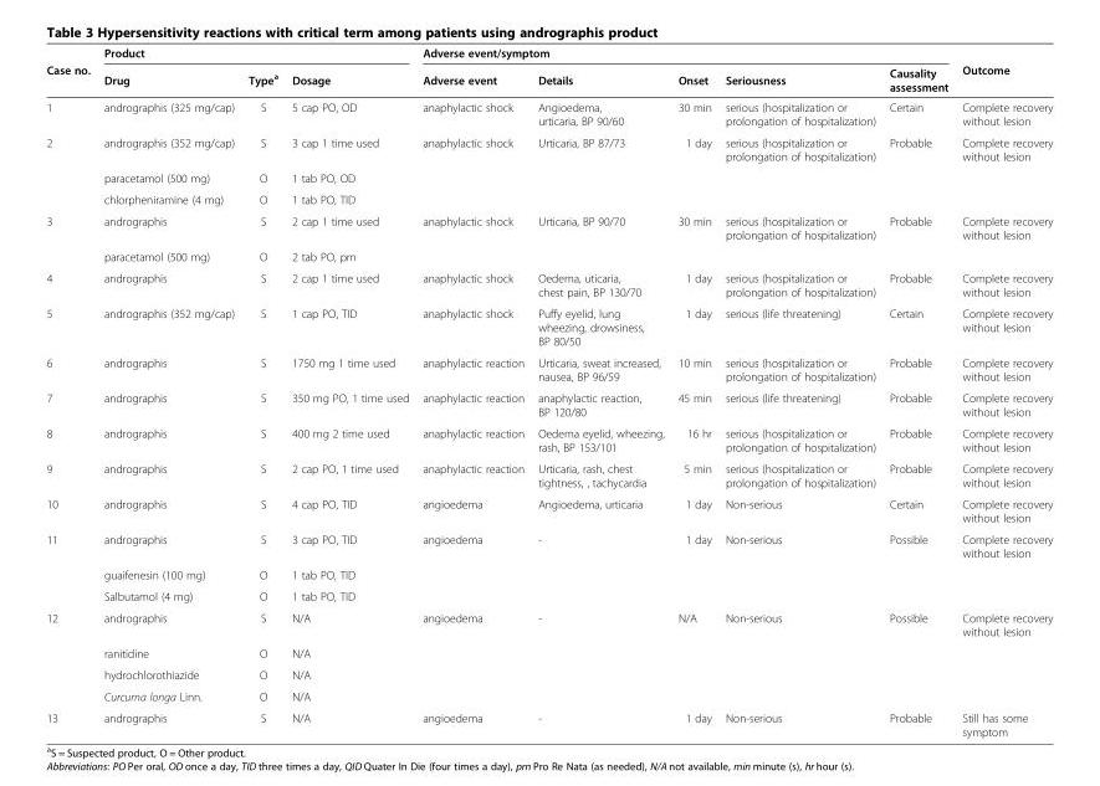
<table><thead><tr><td rowspan="2">Case no.</td><td colspan="3">Product</td><td colspan="5">Adverse event/symptom</td><td rowspan="2">Outcome</td></tr><tr><td>Drug</td><td>Type<sup>a</sup></td><td>Dosage</td><td>Adverse event</td><td>Details</td><td>Onset</td><td>Seriousness</td><td>Causality assessment</td></tr></thead><tbody><tr><td>1</td><td>andrographis (325 mg/cap)</td><td>S</td><td>5 cap PO, OD</td><td>anaphylactic shock</td><td>Angioedema, urticaria, BP 90/60</td><td>30 min</td><td>serious (hospitalization or prolongation of hospitalization)</td><td>Certain</td><td>Complete recovery without lesion</td></tr><tr><td rowspan="3">2</td><td>andrographis (352 mg/cap)</td><td>S</td><td>3 cap 1 time used</td><td>anaphylactic shock</td><td>Urticaria, BP 87/73</td><td>1 day</td><td rowspan="3">serious (hospitalization or prolongation of hospitalization)</td><td>Probable</td><td>Complete recovery without lesion</td></tr><tr><td>paracetamol (500 mg)</td><td>O</td><td>1 tab PO, OD</td><td></td><td></td><td></td><td></td><td></td></tr><tr><td>chlorpheniramine (4 mg)</td><td>O</td><td>1 tab PO, TID</td><td></td><td></td><td></td><td></td><td></td></tr><tr><td rowspan="2">3</td><td>andrographis</td><td>S</td><td>2 cap 1 time used</td><td>anaphylactic shock</td><td>Urticaria, BP 90/70</td><td>30 min</td><td rowspan="2">serious (hospitalization or prolongation of hospitalization)</td><td>Probable</td><td>Complete recovery without lesion</td></tr><tr><td>paracetamol (500 mg)</td><td>O</td><td>2 tab PO, prn</td><td></td><td></td><td></td><td></td><td></td></tr><tr><td>4</td><td>andrographis</td><td>S</td><td>2 cap 1 time used</td><td>anaphylactic shock</td><td>Oedema, uticaria, chest pain, BP 130/70</td><td>1 day</td><td>serious (hospitalization or prolongation of hospitalization)</td><td>Probable</td><td>Complete recovery without lesion</td></tr><tr><td>5</td><td>andrographis (352 mg/cap)</td><td>S</td><td>1 cap PO, TID</td><td>anaphylactic shock</td><td>Puffy eyelid, lung wheezing, drowsiness, BP 80/50</td><td>1 day</td><td>serious (life threatening)</td><td>Certain</td><td>Complete recovery without lesion</td></tr><tr><td>6</td><td>andrographis</td><td>S</td><td>1750 mg 1 time used</td><td>anaphylactic reaction</td><td>Urticaria, sweat increased, nausea, BP 96/59</td><td>10 min</td><td>serious (hospitalization or prolongation of hospitalization)</td><td>Probable</td><td>Complete recovery without lesion</td></tr><tr><td>7</td><td>andrographis</td><td>S</td><td>350 mg PO, 1 time used</td><td>anaphylactic reaction</td><td>anaphylactic reaction, BP 120/80</td><td>45 min</td><td>serious (life threatening)</td><td>Probable</td><td>Complete recovery without lesion</td></tr><tr><td>8</td><td>andrographis</td><td>S</td><td>400 mg 2 time used</td><td>anaphylactic reaction</td><td>Oedema eyelid, wheezing, rash, BP 153/101</td><td>16 hr</td><td>serious (hospitalization or prolongation of hospitalization)</td><td>Probable</td><td>Complete recovery without lesion</td></tr><tr><td>9</td><td>andrographis</td><td>S</td><td>2 cap PO, 1 time used</td><td>anaphylactic reaction</td><td>Urticaria, rash, chest tightness, , tachycardia</td><td>5 min</td><td>serious (hospitalization or prolongation of hospitalization)</td><td>Probable</td><td>Complete recovery without lesion</td></tr><tr><td>10</td><td>andrographis</td><td>S</td><td>4 cap PO, TID</td><td>angioedema</td><td>Angioedema, urticaria</td><td>1 day</td><td>Non-serious</td><td>Certain</td><td>Complete recovery without lesion</td></tr><tr><td rowspan="3">11</td><td>andrographis</td><td>S</td><td>3 cap PO, TID</td><td>angioedema</td><td>-</td><td>1 day</td><td>Non-serious</td><td>Possible</td><td>Complete recovery without lesion</td></tr><tr><td>guaifenesin (100 mg)</td><td>O</td><td>1 tab PO, TID</td><td></td><td></td><td></td><td></td><td></td><td></td></tr><tr><td>Salbutamol (4 mg)</td><td>O</td><td>1 tab PO, TID</td><td></td><td></td><td></td><td></td><td></td><td></td></tr><tr><td rowspan="4">12</td><td>andrographis</td><td>S</td><td>N/A</td><td>angioedema</td><td>-</td><td>N/A</td><td>Non-serious</td><td>Possible</td><td>Complete recovery without lesion</td></tr><tr><td>ranitidine</td><td>O</td><td>N/A</td><td></td><td></td><td></td><td></td><td></td><td></td></tr><tr><td>hydrochlorothiazide</td><td>O</td><td>N/A</td><td></td><td></td><td></td><td></td><td></td><td></td></tr><tr><td>Curcuma longa Linn.</td><td>O</td><td>N/A</td><td></td><td></td><td></td><td></td><td></td><td></td></tr><tr><td>13</td><td>andrographis</td><td>S</td><td>N/A</td><td>angioedema</td><td>-</td><td>1 day</td><td>Non-serious</td><td>Probable</td><td>Still has some symptom</td></tr></tbody></table>